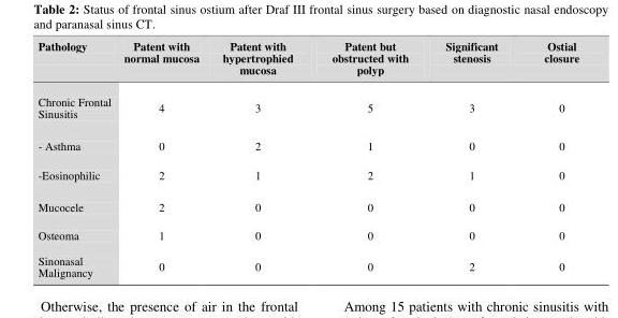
<table><thead><tr><td>Pathology</td><td>Patent with normal mucosa</td><td>Patent with hypertrophied mucosa</td><td>Patent but obstructed with polyp</td><td>Significant stenosis</td><td>Ostial closure</td></tr></thead><tbody><tr><td>Chronic Frontal Sinusitis</td><td>4</td><td>3</td><td>5</td><td>3</td><td>0</td></tr><tr><td>- Asthma</td><td>0</td><td>2</td><td>1</td><td>0</td><td>0</td></tr><tr><td>-Eosinophilic</td><td>2</td><td>1</td><td>2</td><td>1</td><td>0</td></tr><tr><td>Mucocele</td><td>2</td><td>0</td><td>0</td><td>0</td><td>0</td></tr><tr><td>Osteoma</td><td>1</td><td>0</td><td>0</td><td>0</td><td>0</td></tr><tr><td>Sinonasal Malignancy</td><td>0</td><td>0</td><td>0</td><td>2</td><td>0</td></tr></tbody></table>